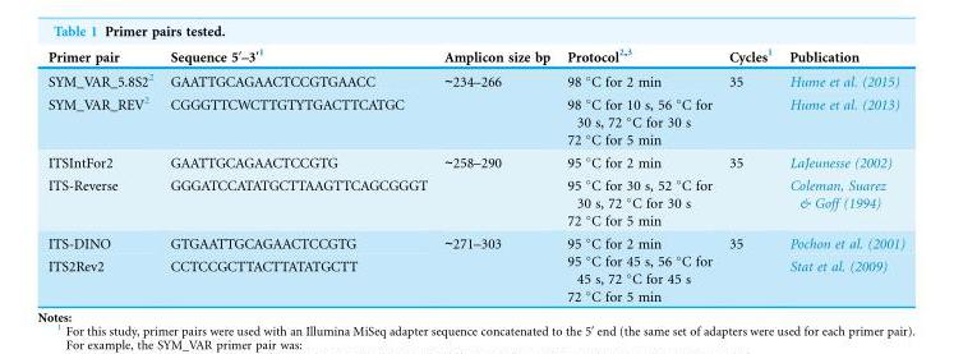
<table><thead><tr><td>Primer pair</td><td>Sequence 5′–3′<sup>1</sup></td><td>Amplicon size bp</td><td>Protocol<sup>2,3</sup></td><td>Cycles<sup>1</sup></td><td>Publication</td></tr></thead><tbody><tr><td>SYM_VAR_5.8S2<sup>2</sup></td><td>GAATTGCAGAACTCCGTGAACC</td><td rowspan="2">∼234–266</td><td>98 °C for 2 min</td><td rowspan="2">35</td><td>Hume et al. (2015)</td></tr><tr><td>SYM_VAR_REV<sup>2</sup></td><td>CGGGTTCWCTTGTYTGACTTCATGC</td><td>98 °C for 10 s, 56 °C for 30 s, 72 °C for 30 s 72 °C for 5 min</td><td>Hume et al. (2013)</td></tr><tr><td>ITSIntFor2</td><td>GAATTGCAGAACTCCGTG</td><td>∼258–290</td><td>95 °C for 2 min</td><td>35</td><td>LaJeunesse (2002)</td></tr><tr><td>ITS-Reverse</td><td>GGGATCCATATGCTTAAGTTCAGCGGGT</td><td></td><td>95 °C for 30 s, 52 °C for 30 s, 72 °C for 30 s 72 °C for 5 min</td><td></td><td>Coleman, Suarez &amp; Goff (1994)</td></tr><tr><td>ITS-DINO</td><td>GTGAATTGCAGAACTCCGTG</td><td rowspan="2">∼271–303</td><td rowspan="2">95 °C for 2 min 95 °C for 45 s, 56 °C for 45 s, 72 °C for 45 s 72 °C for 5 min</td><td rowspan="2">35</td><td>Pochon et al. (2001)</td></tr><tr><td>ITS2Rev2</td><td>CCTCCGCTTACTTATATGCTT</td><td>Stat et al. (2009)</td></tr></tbody></table>